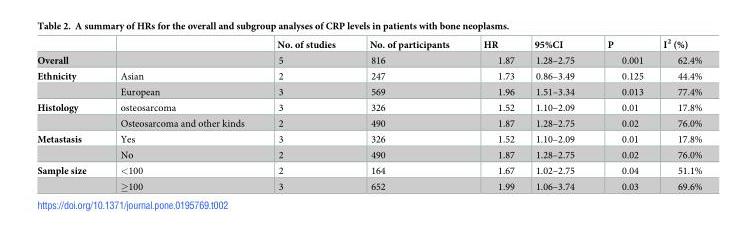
<table><thead><tr><td></td><td></td><td>No. of studies</td><td>No. of participants</td><td>HR</td><td>95%CI</td><td>P</td><td>I<sup>2</sup> (%)</td></tr></thead><tbody><tr><td>Overall</td><td></td><td>5</td><td>816</td><td>1.87</td><td>1.28–2.75</td><td>0.001</td><td>62.4%</td></tr><tr><td rowspan="2">Ethnicity</td><td>Asian</td><td>2</td><td>247</td><td>1.73</td><td>0.86–3.49</td><td>0.125</td><td>44.4%</td></tr><tr><td>European</td><td>3</td><td>569</td><td>1.96</td><td>1.51–3.34</td><td>0.013</td><td>77.4%</td></tr><tr><td rowspan="2">Histology</td><td>osteosarcoma</td><td>3</td><td>326</td><td>1.52</td><td>1.10–2.09</td><td>0.01</td><td>17.8%</td></tr><tr><td>Osteosarcoma and other kinds</td><td>2</td><td>490</td><td>1.87</td><td>1.28–2.75</td><td>0.02</td><td>76.0%</td></tr><tr><td rowspan="2">Metastasis</td><td>Yes</td><td>3</td><td>326</td><td>1.52</td><td>1.10–2.09</td><td>0.01</td><td>17.8%</td></tr><tr><td>No</td><td>2</td><td>490</td><td>1.87</td><td>1.28–2.75</td><td>0.02</td><td>76.0%</td></tr><tr><td rowspan="2">Sample size</td><td>&lt;100</td><td>2</td><td>164</td><td>1.67</td><td>1.02–2.75</td><td>0.04</td><td>51.1%</td></tr><tr><td>≥100</td><td>3</td><td>652</td><td>1.99</td><td>1.06–3.74</td><td>0.03</td><td>69.6%</td></tr></tbody></table>